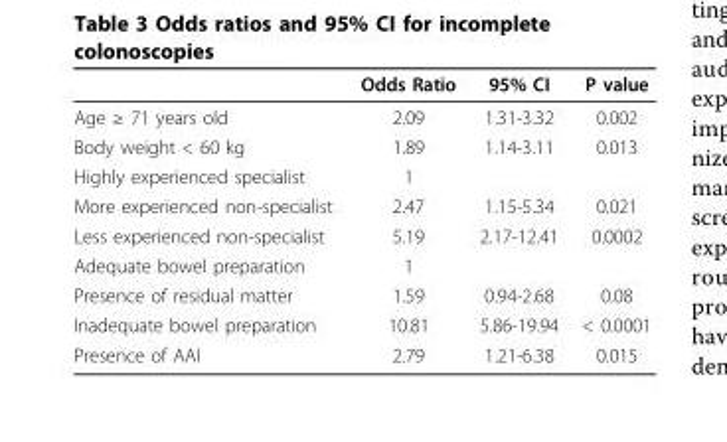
<table><thead><tr><td></td><td>Odds Ratio</td><td>95% CI</td><td>P value</td></tr></thead><tbody><tr><td>Age ≥ 71 years old</td><td>2.09</td><td>1.31-3.32</td><td>0.002</td></tr><tr><td>Body weight &lt; 60 kg</td><td>1.89</td><td>1.14-3.11</td><td>0.013</td></tr><tr><td>Highly experienced specialist</td><td>1</td><td></td><td></td></tr><tr><td>More experienced non-specialist</td><td>2.47</td><td>1.15-5.34</td><td>0.021</td></tr><tr><td>Less experienced non-specialist</td><td>5.19</td><td>2.17-12.41</td><td>0.0002</td></tr><tr><td>Adequate bowel preparation</td><td>1</td><td></td><td></td></tr><tr><td>Presence of residual matter</td><td>1.59</td><td>0.94-2.68</td><td>0.08</td></tr><tr><td>Inadequate bowel preparation</td><td>10.81</td><td>5.86-19.94</td><td>&lt; 0.0001</td></tr><tr><td>Presence of AAI</td><td>2.79</td><td>1.21-6.38</td><td>0.015</td></tr></tbody></table>